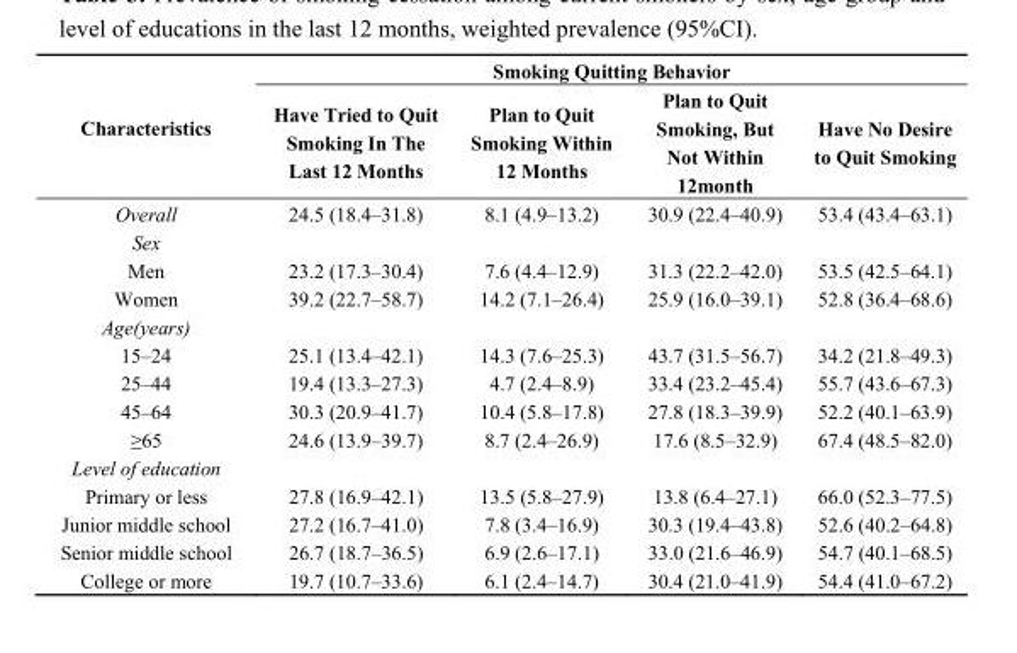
<table><thead><tr><td rowspan="2">Characteristics</td><td colspan="4">Smoking Quitting Behavior</td></tr><tr><td>Have Tried to Quit Smoking In The Last 12 Months</td><td>Plan to Quit Smoking Within 12 Months</td><td>Plan to Quit Smoking, But Not Within 12month</td><td>Have No Desire to Quit Smoking</td></tr></thead><tbody><tr><td>Overall</td><td>24.5 (18.4–31.8)</td><td>8.1 (4.9–13.2)</td><td>30.9 (22.4–40.9)</td><td>53.4 (43.4–63.1)</td></tr><tr><td colspan="5">Sex</td></tr><tr><td>Men</td><td>23.2 (17.3–30.4)</td><td>7.6 (4.4–12.9)</td><td>31.3 (22.2–42.0)</td><td>53.5 (42.5–64.1)</td></tr><tr><td>Women</td><td>39.2 (22.7–58.7)</td><td>14.2 (7.1–26.4)</td><td>25.9 (16.0–39.1)</td><td>52.8 (36.4–68.6)</td></tr><tr><td colspan="5">Age(years)</td></tr><tr><td>15–24</td><td>25.1 (13.4–42.1)</td><td>14.3 (7.6–25.3)</td><td>43.7 (31.5–56.7)</td><td>34.2 (21.8–49.3)</td></tr><tr><td>25–44</td><td>19.4 (13.3–27.3)</td><td>4.7 (2.4–8.9)</td><td>33.4 (23.2–45.4)</td><td>55.7 (43.6–67.3)</td></tr><tr><td>45–64</td><td>30.3 (20.9–41.7)</td><td>10.4 (5.8–17.8)</td><td>27.8 (18.3–39.9)</td><td>52.2 (40.1–63.9)</td></tr><tr><td>≥65</td><td>24.6 (13.9–39.7)</td><td>8.7 (2.4–26.9)</td><td>17.6 (8.5–32.9)</td><td>67.4 (48.5–82.0)</td></tr><tr><td colspan="5">Level of education</td></tr><tr><td>Primary or less</td><td>27.8 (16.9–42.1)</td><td>13.5 (5.8–27.9)</td><td>13.8 (6.4–27.1)</td><td>66.0 (52.3–77.5)</td></tr><tr><td>Junior middle school</td><td>27.2 (16.7–41.0)</td><td>7.8 (3.4–16.9)</td><td>30.3 (19.4–43.8)</td><td>52.6 (40.2–64.8)</td></tr><tr><td>Senior middle school</td><td>26.7 (18.7–36.5)</td><td>6.9 (2.6–17.1)</td><td>33.0 (21.6–46.9)</td><td>54.7 (40.1–68.5)</td></tr><tr><td>College or more</td><td>19.7 (10.7–33.6)</td><td>6.1 (2.4–14.7)</td><td>30.4 (21.0–41.9)</td><td>54.4 (41.0–67.2)</td></tr></tbody></table>